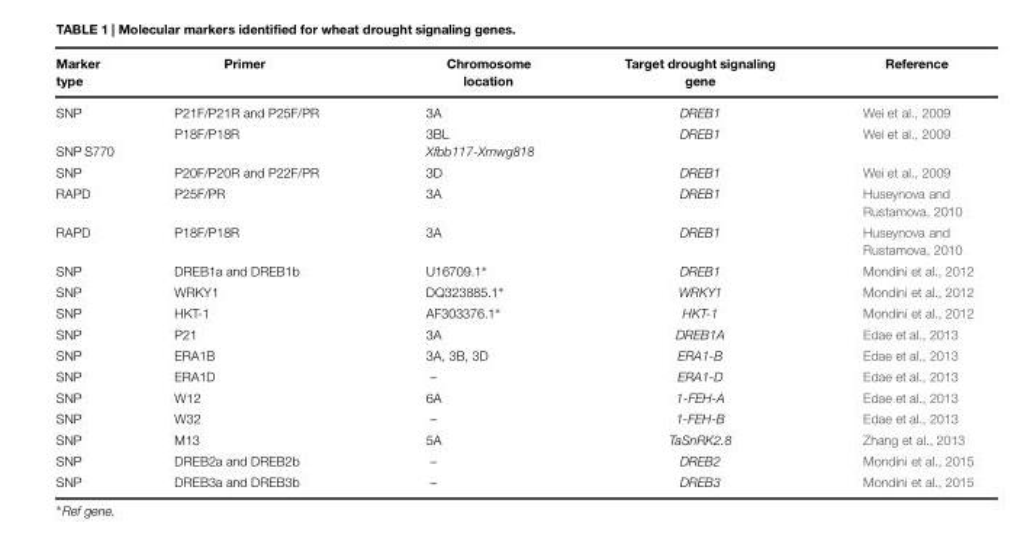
<table><thead><tr><td>Marker type</td><td>Primer</td><td>Chromosome location</td><td>Target drought signaling gene</td><td>Reference</td></tr></thead><tbody><tr><td>SNP</td><td>P21F/P21R and P25F/PR</td><td>3A</td><td>DREB1</td><td>Wei et al., 2009</td></tr><tr><td>SNP S770</td><td>P18F/P18R</td><td>3BL Xfbb117-Xmwg818</td><td>DREB1</td><td>Wei et al., 2009</td></tr><tr><td>SNP</td><td>P20F/P20R and P22F/PR</td><td>3D</td><td>DREB1</td><td>Wei et al., 2009</td></tr><tr><td>RAPD</td><td>P25F/PR</td><td>3A</td><td>DREB1</td><td>Huseynova and Rustamova, 2010</td></tr><tr><td>RAPD</td><td>P18F/P18R</td><td>3A</td><td>DREB1</td><td>Huseynova and Rustamova, 2010</td></tr><tr><td>SNP</td><td>DREB1a and DREB1b</td><td>U16709.1∗</td><td>DREB1</td><td>Mondini et al., 2012</td></tr><tr><td>SNP</td><td>WRKY1</td><td>DQ323885.1∗</td><td>WRKY1</td><td>Mondini et al., 2012</td></tr><tr><td>SNP</td><td>HKT-1</td><td>AF303376.1∗</td><td>HKT-1</td><td>Mondini et al., 2012</td></tr><tr><td>SNP</td><td>P21</td><td>3A</td><td>DREB1A</td><td>Edae et al., 2013</td></tr><tr><td>SNP</td><td>ERA1B</td><td>3A, 3B, 3D</td><td>ERA1-B</td><td>Edae et al., 2013</td></tr><tr><td>SNP</td><td>ERA1D</td><td>–</td><td>ERA1-D</td><td>Edae et al., 2013</td></tr><tr><td>SNP</td><td>W12</td><td>6A</td><td>1-FEH-A</td><td>Edae et al., 2013</td></tr><tr><td>SNP</td><td>W32</td><td>–</td><td>1-FEH-B</td><td>Edae et al., 2013</td></tr><tr><td>SNP</td><td>M13</td><td>5A</td><td>TaSnRK2.8</td><td>Zhang et al., 2013</td></tr><tr><td>SNP</td><td>DREB2a and DREB2b</td><td>–</td><td>DREB2</td><td>Mondini et al., 2015</td></tr><tr><td>SNP</td><td>DREB3a and DREB3b</td><td>–</td><td>DREB3</td><td>Mondini et al., 2015</td></tr></tbody></table>